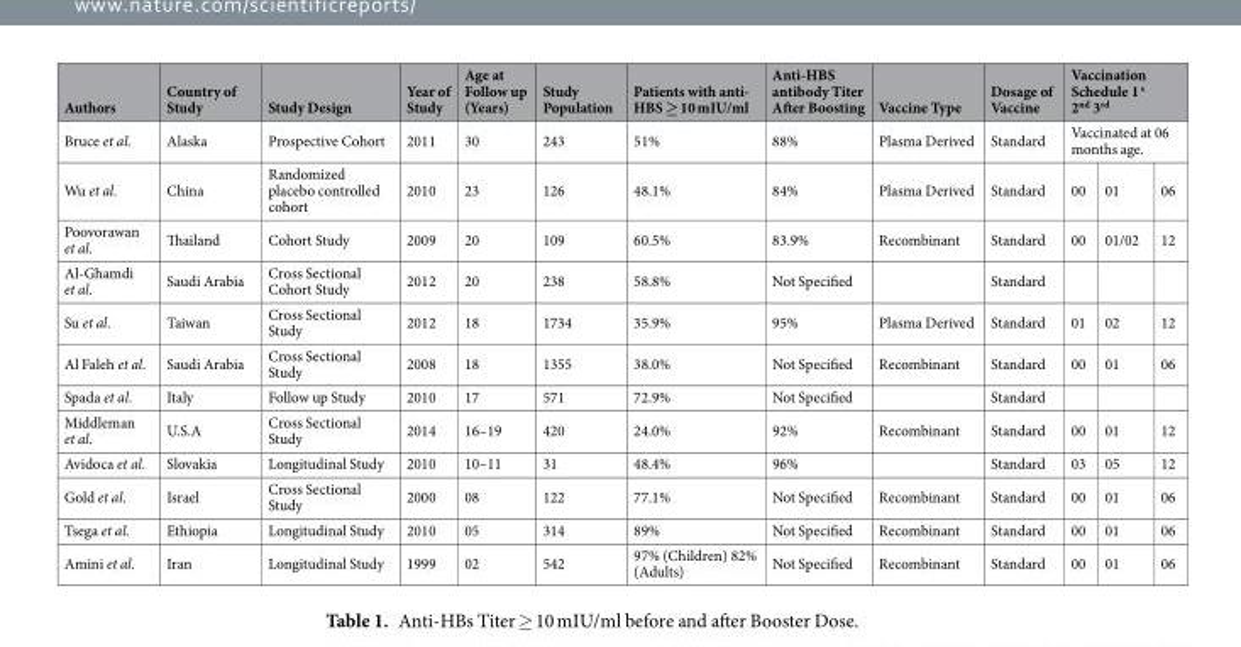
<table><thead><tr><td rowspan="3">Authors Bruce et al. Wu et al.</td><td rowspan="3">Country of Study Alaska China</td><td rowspan="3">Study Design Prospective Cohort Randomized placebo controlled cohort</td><td rowspan="3">Year of Study 2011 2010</td><td rowspan="3">Age at Follow up (Years) 30 23</td><td rowspan="3">Study Population 243 126</td><td rowspan="3">Patients with anti- HBS ≥ 10 mIU/ml 51% 48.1%</td><td rowspan="3">Anti-HBS antibody Titer After Boosting 88% 84%</td><td rowspan="3">Vaccine Type Plasma Derived Plasma Derived</td><td rowspan="3">Dosage of Vaccine Standard Standard</td><td rowspan="2" colspan="3">Vaccination Schedule 1 <sup>s</sup> 2<sup>nd</sup> 3<sup>rd</sup> Vaccinated at 06 months age.</td></tr><tr></tr><tr><td>00</td><td>01</td><td>06</td></tr></thead><tbody><tr><td>Poovorawan et al.</td><td>Thailand</td><td>Cohort Study</td><td>2009</td><td>20</td><td>109</td><td>60.5%</td><td>83.9%</td><td>Recombinant</td><td>Standard</td><td>00</td><td>01/02</td><td>12</td></tr><tr><td>Al-Ghamdi et al.</td><td>Saudi Arabia</td><td>Cross Sectional Cohort Study</td><td>2012</td><td>20</td><td>238</td><td>58.8%</td><td>Not Specified</td><td></td><td>Standard</td><td></td><td></td><td></td></tr><tr><td>Su et al.</td><td>Taiwan</td><td>Cross Sectional Study</td><td>2012</td><td>18</td><td>1734</td><td>35.9%</td><td>95%</td><td>Plasma Derived</td><td>Standard</td><td>01</td><td>02</td><td>12</td></tr><tr><td>Al Faleh et al.</td><td>Saudi Arabia</td><td>Cross Sectional Study</td><td>2008</td><td>18</td><td>1355</td><td>38.0%</td><td>Not Specified</td><td>Recombinant</td><td>Standard</td><td>00</td><td>01</td><td>06</td></tr><tr><td>Spada et al.</td><td>Italy</td><td>Follow up Study</td><td>2010</td><td>17</td><td>571</td><td>72.9%</td><td>Not Specified</td><td></td><td>Standard</td><td></td><td></td><td></td></tr><tr><td>Middleman et al.</td><td>U.S.A</td><td>Cross Sectional Study</td><td>2014</td><td>16–19</td><td>420</td><td>24.0%</td><td>92%</td><td>Recombinant</td><td>Standard</td><td>00</td><td>01</td><td>12</td></tr><tr><td>Avidoca et al.</td><td>Slovakia</td><td>Longitudinal Study</td><td>2010</td><td>10–11</td><td>31</td><td>48.4%</td><td>96%</td><td></td><td>Standard</td><td>03</td><td>05</td><td>12</td></tr><tr><td>Gold et al.</td><td>Israel</td><td>Cross Sectional Study</td><td>2000</td><td>08</td><td>122</td><td>77.1%</td><td>Not Specified</td><td>Recombinant</td><td>Standard</td><td>00</td><td>01</td><td>06</td></tr><tr><td>Tsega et al.</td><td>Ethiopia</td><td>Longitudinal Study</td><td>2010</td><td>05</td><td>314</td><td>89%</td><td>Not Specified</td><td>Recombinant</td><td>Standard</td><td>00</td><td>01</td><td>06</td></tr><tr><td>Amini et al.</td><td>Iran</td><td>Longitudinal Study</td><td>1999</td><td>02</td><td>542</td><td>97% (Children) 82% (Adults)</td><td>Not Specified</td><td>Recombinant</td><td>Standard</td><td>00</td><td>01</td><td>06</td></tr></tbody></table>